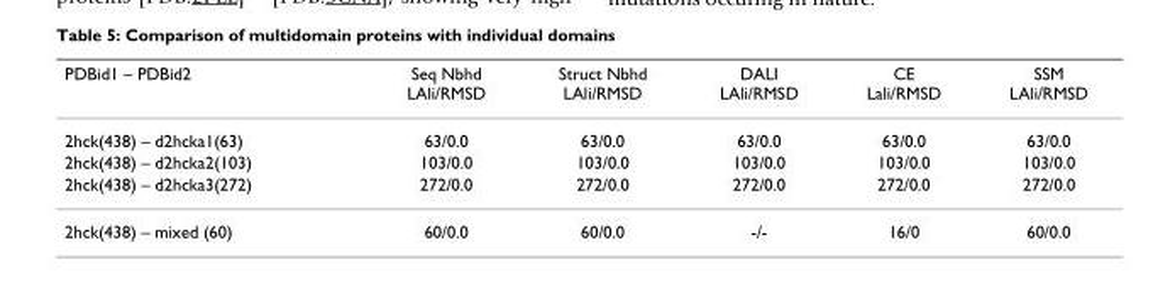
<table><thead><tr><td>PDBid1 – PDBid2</td><td>Seq Nbhd LAli/RMSD</td><td>Struct Nbhd LAli/RMSD</td><td>DALI LAli/RMSD</td><td>CE Lali/RMSD</td><td>SSM LAli/RMSD</td></tr></thead><tbody><tr><td>2hck(438) – d2hcka1(63)</td><td>63/0.0</td><td>63/0.0</td><td>63/0.0</td><td>63/0.0</td><td>63/0.0</td></tr><tr><td>2hck(438) – d2hcka2(103)</td><td>103/0.0</td><td>103/0.0</td><td>103/0.0</td><td>103/0.0</td><td>103/0.0</td></tr><tr><td>2hck(438) – d2hcka3(272)</td><td>272/0.0</td><td>272/0.0</td><td>272/0.0</td><td>272/0.0</td><td>272/0.0</td></tr><tr><td>2hck(438) – mixed (60)</td><td>60/0.0</td><td>60/0.0</td><td>-/-</td><td>16/0</td><td>60/0.0</td></tr></tbody></table>